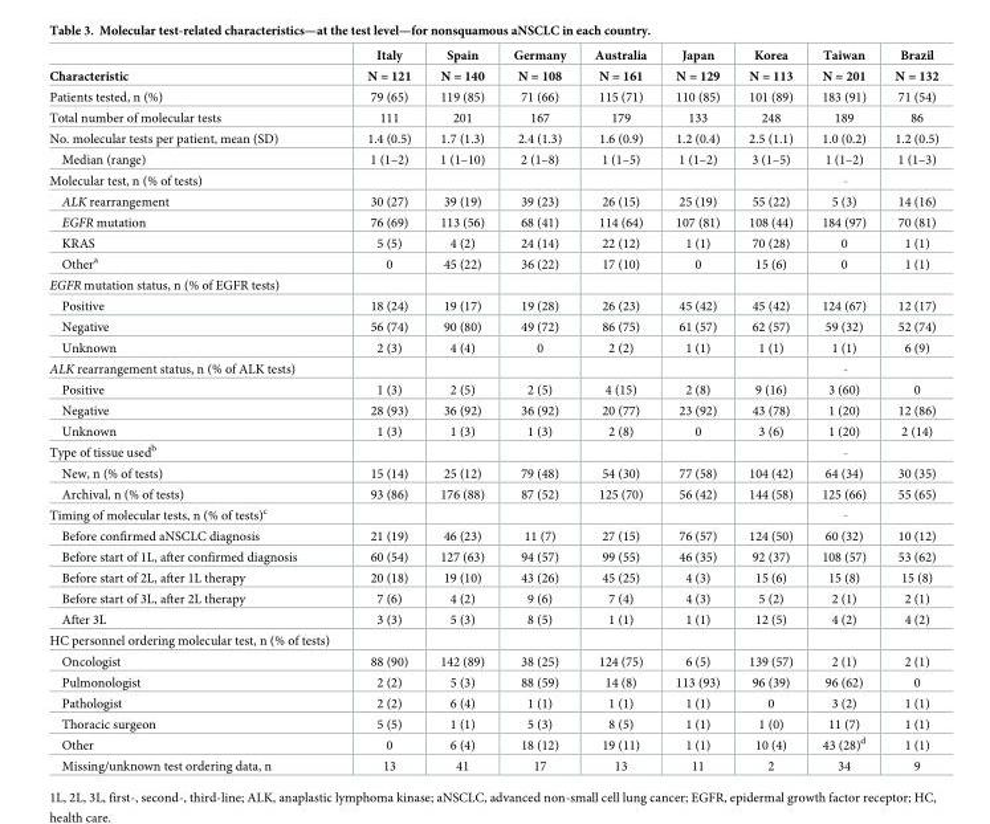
<table><thead><tr><td rowspan="2">Characteristic</td><td rowspan="2">Italy N = 121</td><td rowspan="2">Spain N = 140</td><td rowspan="2">Germany N = 108</td><td rowspan="2">Australia N = 161</td><td rowspan="2">Japan N = 129</td><td rowspan="2">Korea N = 113</td><td rowspan="2">Taiwan N = 201</td><td rowspan="2">Brazil N = 132</td></tr><tr></tr></thead><tbody><tr><td>Patients tested, n (%)</td><td>79 (65)</td><td>119 (85)</td><td>71 (66)</td><td>115 (71)</td><td>110 (85)</td><td>101 (89)</td><td>183 (91)</td><td>71 (54)</td></tr><tr><td>Total number of molecular tests</td><td>111</td><td>201</td><td>167</td><td>179</td><td>133</td><td>248</td><td>189</td><td>86</td></tr><tr><td>No. molecular tests per patient, mean (SD)</td><td>1.4 (0.5)</td><td>1.7 (1.3)</td><td>2.4 (1.3)</td><td>1.6 (0.9)</td><td>1.2 (0.4)</td><td>2.5 (1.1)</td><td>1.0 (0.2)</td><td>1.2 (0.5)</td></tr><tr><td>Median (range)</td><td>1 (1–2)</td><td>1 (1–10)</td><td>2 (1–8)</td><td>1 (1–5)</td><td>1 (1–2)</td><td>3 (1–5)</td><td>1 (1–2)</td><td>1 (1–3)</td></tr><tr><td colspan="9">Molecular test, n (% of tests)</td></tr><tr><td>ALK rearrangement</td><td>30 (27)</td><td>39 (19)</td><td>39 (23)</td><td>26 (15)</td><td>25 (19)</td><td>55 (22)</td><td>5 (3)</td><td>14 (16)</td></tr><tr><td>EGFR mutation</td><td>76 (69)</td><td>113 (56)</td><td>68 (41)</td><td>114 (64)</td><td>107 (81)</td><td>108 (44)</td><td>184 (97)</td><td>70 (81)</td></tr><tr><td>KRAS</td><td>5 (5)</td><td>4 (2)</td><td>24 (14)</td><td>22 (12)</td><td>1 (1)</td><td>70 (28)</td><td>0</td><td>1 (1)</td></tr><tr><td>Other<sup>a</sup></td><td>0</td><td>45 (22)</td><td>36 (22)</td><td>17 (10)</td><td>0</td><td>15 (6)</td><td>0</td><td>1 (1)</td></tr><tr><td colspan="9">EGFR mutation status, n (% of EGFR tests)</td></tr><tr><td>Positive</td><td>18 (24)</td><td>19 (17)</td><td>19 (28)</td><td>26 (23)</td><td>45 (42)</td><td>45 (42)</td><td>124 (67)</td><td>12 (17)</td></tr><tr><td>Negative</td><td>56 (74)</td><td>90 (80)</td><td>49 (72)</td><td>86 (75)</td><td>61 (57)</td><td>62 (57)</td><td>59 (32)</td><td>52 (74)</td></tr><tr><td>Unknown</td><td>2 (3)</td><td>4 (4)</td><td>0</td><td>2 (2)</td><td>1 (1)</td><td>1 (1)</td><td>1 (1)</td><td>6 (9)</td></tr><tr><td colspan="9">ALK rearrangement status, n (% of ALK tests)</td></tr><tr><td>Positive</td><td>1 (3)</td><td>2 (5)</td><td>2 (5)</td><td>4 (15)</td><td>2 (8)</td><td>9 (16)</td><td>3 (60)</td><td>0</td></tr><tr><td>Negative</td><td>28 (93)</td><td>36 (92)</td><td>36 (92)</td><td>20 (77)</td><td>23 (92)</td><td>43 (78)</td><td>1 (20)</td><td>12 (86)</td></tr><tr><td>Unknown</td><td>1 (3)</td><td>1 (3)</td><td>1 (3)</td><td>2 (8)</td><td>0</td><td>3 (6)</td><td>1 (20)</td><td>2 (14)</td></tr><tr><td colspan="9">Type of tissue used<sup>b</sup></td></tr><tr><td>New, n (% of tests)</td><td>15 (14)</td><td>25 (12)</td><td>79 (48)</td><td>54 (30)</td><td>77 (58)</td><td>104 (42)</td><td>64 (34)</td><td>30 (35)</td></tr><tr><td>Archival, n (% of tests)</td><td>93 (86)</td><td>176 (88)</td><td>87 (52)</td><td>125 (70)</td><td>56 (42)</td><td>144 (58)</td><td>125 (66)</td><td>55 (65)</td></tr><tr><td colspan="9">Timing of molecular tests, n (% of tests)<sup>c</sup></td></tr><tr><td>Before confirmed aNSCLC diagnosis</td><td>21 (19)</td><td>46 (23)</td><td>11 (7)</td><td>27 (15)</td><td>76 (57)</td><td>124 (50)</td><td>60 (32)</td><td>10 (12)</td></tr><tr><td>Before start of 1L, after confirmed diagnosis</td><td>60 (54)</td><td>127 (63)</td><td>94 (57)</td><td>99 (55)</td><td>46 (35)</td><td>92 (37)</td><td>108 (57)</td><td>53 (62)</td></tr><tr><td>Before start of 2L, after 1L therapy</td><td>20 (18)</td><td>19 (10)</td><td>43 (26)</td><td>45 (25)</td><td>4 (3)</td><td>15 (6)</td><td>15 (8)</td><td>15 (8)</td></tr><tr><td>Before start of 3L, after 2L therapy</td><td>7 (6)</td><td>4 (2)</td><td>9 (6)</td><td>7 (4)</td><td>4 (3)</td><td>5 (2)</td><td>2 (1)</td><td>2 (1)</td></tr><tr><td>After 3L</td><td>3 (3)</td><td>5 (3)</td><td>8 (5)</td><td>1 (1)</td><td>1 (1)</td><td>12 (5)</td><td>4 (2)</td><td>4 (2)</td></tr><tr><td colspan="9">HC personnel ordering molecular test, n (% of tests)</td></tr><tr><td>Oncologist</td><td>88 (90)</td><td>142 (89)</td><td>38 (25)</td><td>124 (75)</td><td>6 (5)</td><td>139 (57)</td><td>2 (1)</td><td>2 (1)</td></tr><tr><td>Pulmonologist</td><td>2 (2)</td><td>5 (3)</td><td>88 (59)</td><td>14 (8)</td><td>113 (93)</td><td>96 (39)</td><td>96 (62)</td><td>0</td></tr><tr><td>Pathologist</td><td>2 (2)</td><td>6 (4)</td><td>1 (1)</td><td>1 (1)</td><td>1 (1)</td><td>0</td><td>3 (2)</td><td>1 (1)</td></tr><tr><td>Thoracic surgeon</td><td>5 (5)</td><td>1 (1)</td><td>5 (3)</td><td>8 (5)</td><td>1 (1)</td><td>1 (0)</td><td>11 (7)</td><td>1 (1)</td></tr><tr><td>Other</td><td>0</td><td>6 (4)</td><td>18 (12)</td><td>19 (11)</td><td>1 (1)</td><td>10 (4)</td><td>43 (28)<sup>d</sup></td><td>1 (1)</td></tr><tr><td>Missing/unknown test ordering data, n</td><td>13</td><td>41</td><td>17</td><td>13</td><td>11</td><td>2</td><td>34</td><td>9</td></tr></tbody></table>